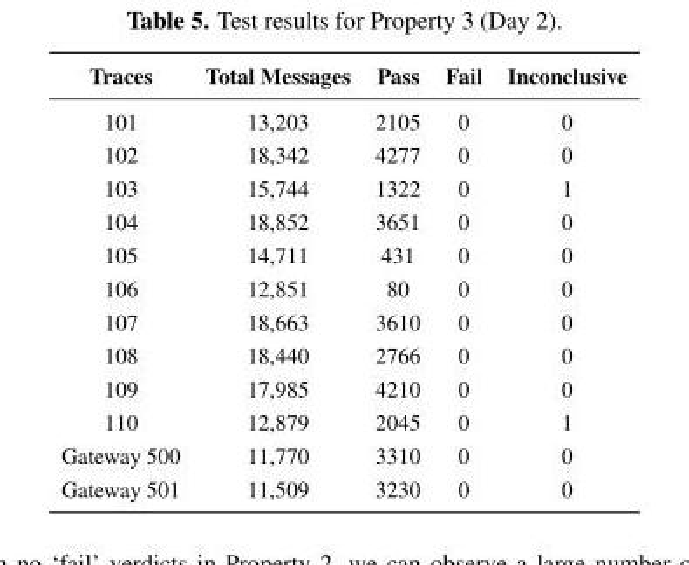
<table><thead><tr><td>Traces</td><td>Total Messages</td><td>Pass</td><td>Fail</td><td>Inconclusive</td></tr></thead><tbody><tr><td>101</td><td>13,203</td><td>2105</td><td>0</td><td>0</td></tr><tr><td>102</td><td>18,342</td><td>4277</td><td>0</td><td>0</td></tr><tr><td>103</td><td>15,744</td><td>1322</td><td>0</td><td>1</td></tr><tr><td>104</td><td>18,852</td><td>3651</td><td>0</td><td>0</td></tr><tr><td>105</td><td>14,711</td><td>431</td><td>0</td><td>0</td></tr><tr><td>106</td><td>12,851</td><td>80</td><td>0</td><td>0</td></tr><tr><td>107</td><td>18,663</td><td>3610</td><td>0</td><td>0</td></tr><tr><td>108</td><td>18,440</td><td>2766</td><td>0</td><td>0</td></tr><tr><td>109</td><td>17,985</td><td>4210</td><td>0</td><td>0</td></tr><tr><td>110</td><td>12,879</td><td>2045</td><td>0</td><td>1</td></tr><tr><td>Gateway 500</td><td>11,770</td><td>3310</td><td>0</td><td>0</td></tr><tr><td>Gateway 501</td><td>11,509</td><td>3230</td><td>0</td><td>0</td></tr></tbody></table>